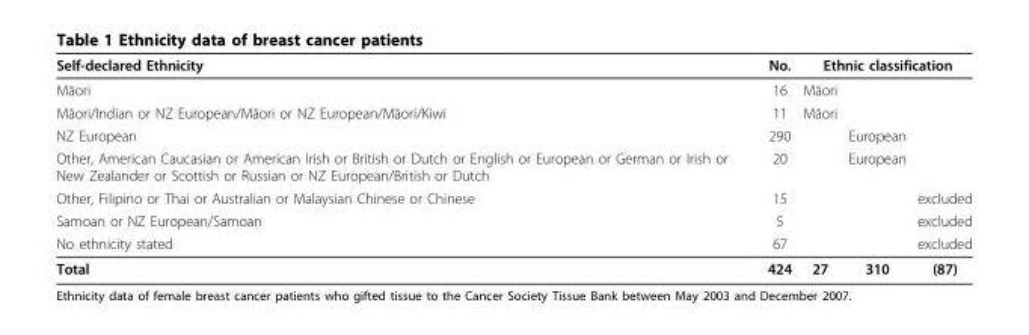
<table><thead><tr><td rowspan="2">Self-declared Ethnicity Māori</td><td rowspan="2">No. 16</td><td colspan="3">Ethnic classification</td></tr><tr><td>Māori</td><td></td><td></td></tr></thead><tbody><tr><td>Māori/Indian or NZ European/Māori or NZ European/Māori/Kiwi</td><td>11</td><td>Māori</td><td></td><td></td></tr><tr><td>NZ European</td><td>290</td><td></td><td>European</td><td></td></tr><tr><td>Other, American Caucasian or American Irish or British or Dutch or English or European or German or Irish or New Zealander or Scottish or Russian or NZ European/British or Dutch</td><td>20</td><td></td><td>European</td><td></td></tr><tr><td>Other, Filipino or Thai or Australian or Malaysian Chinese or Chinese</td><td>15</td><td></td><td></td><td>excluded</td></tr><tr><td>Samoan or NZ European/Samoan</td><td>5</td><td></td><td></td><td>excluded</td></tr><tr><td>No ethnicity stated</td><td>67</td><td></td><td></td><td>excluded</td></tr><tr><td>Total</td><td>424</td><td>27</td><td>310</td><td>(87)</td></tr></tbody></table>